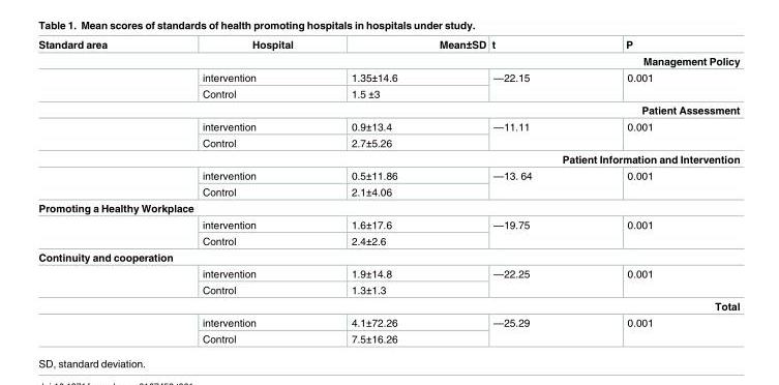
<table><thead><tr><td>Standard area</td><td>Hospital</td><td>Mean±SD</td><td>t</td><td>P</td></tr></thead><tbody><tr><td colspan="5">Management Policy</td></tr><tr><td rowspan="2"></td><td>intervention</td><td>1.35±14.6</td><td rowspan="2">—22.15</td><td rowspan="2">0.001</td></tr><tr><td>Control</td><td>1.5 ±3</td></tr><tr><td colspan="5">Patient Assessment</td></tr><tr><td rowspan="2"></td><td>intervention</td><td>0.9±13.4</td><td rowspan="2">—11.11</td><td rowspan="2">0.001</td></tr><tr><td>Control</td><td>2.7±5.26</td></tr><tr><td colspan="5">Patient Information and Intervention</td></tr><tr><td rowspan="2"></td><td>intervention</td><td>0.5±11.86</td><td rowspan="2">—13. 64</td><td rowspan="2">0.001</td></tr><tr><td>Control</td><td>2.1±4.06</td></tr><tr><td colspan="5">Promoting a Healthy Workplace</td></tr><tr><td rowspan="2"></td><td>intervention</td><td>1.6±17.6</td><td rowspan="2">—19.75</td><td rowspan="2">0.001</td></tr><tr><td>Control</td><td>2.4±2.6</td></tr><tr><td colspan="5">Continuity and cooperation</td></tr><tr><td rowspan="2"></td><td>intervention</td><td>1.9±14.8</td><td rowspan="2">—22.25</td><td rowspan="2">0.001</td></tr><tr><td>Control</td><td>1.3±1.3</td></tr><tr><td colspan="5">Total</td></tr><tr><td rowspan="2"></td><td>intervention</td><td>4.1±72.26</td><td rowspan="2">—25.29</td><td rowspan="2">0.001</td></tr><tr><td>Control</td><td>7.5±16.26</td></tr></tbody></table>